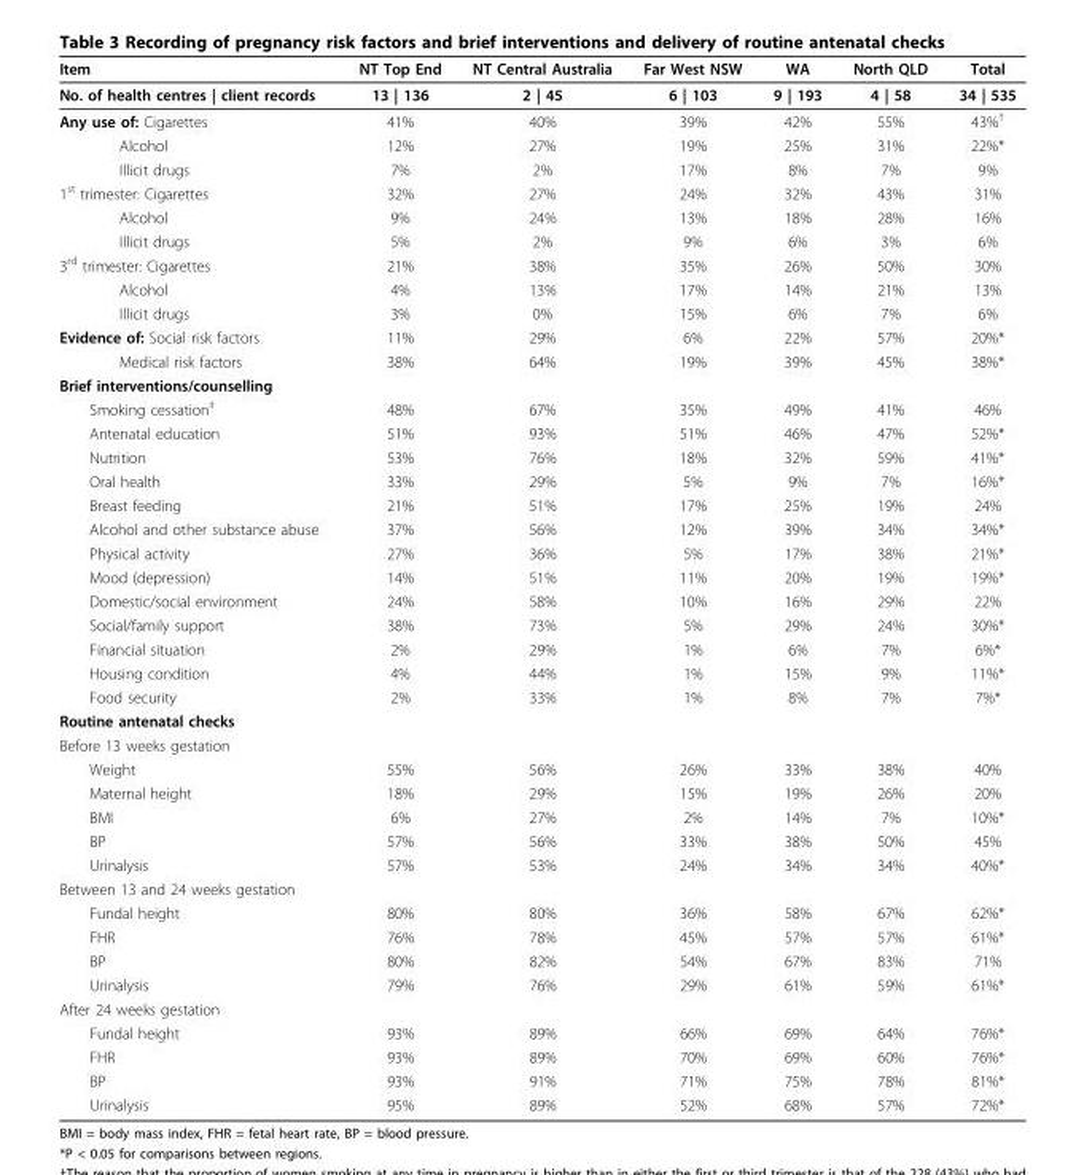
<table><thead><tr><td>Item</td><td>NT Top End</td><td>NT Central Australia</td><td>Far West NSW</td><td>WA</td><td>North QLD</td><td>Total</td></tr></thead><tbody><tr><td>No. of health centres | client records</td><td>13 | 136</td><td>2 | 45</td><td>6 | 103</td><td>9 | 193</td><td>4 | 58</td><td>34 | 535</td></tr><tr><td>Any use of: Cigarettes</td><td>41%</td><td>40%</td><td>39%</td><td>42%</td><td>55%</td><td>43%<sup>†</sup></td></tr><tr><td>Alcohol</td><td>12%</td><td>27%</td><td>19%</td><td>25%</td><td>31%</td><td>22%*</td></tr><tr><td>Illicit drugs</td><td>7%</td><td>2%</td><td>17%</td><td>8%</td><td>7%</td><td>9%</td></tr><tr><td>1<sup>st</sup> trimester: Cigarettes</td><td>32%</td><td>27%</td><td>24%</td><td>32%</td><td>43%</td><td>31%</td></tr><tr><td>Alcohol</td><td>9%</td><td>24%</td><td>13%</td><td>18%</td><td>28%</td><td>16%</td></tr><tr><td>Illicit drugs</td><td>5%</td><td>2%</td><td>9%</td><td>6%</td><td>3%</td><td>6%</td></tr><tr><td>3<sup>rd</sup> trimester: Cigarettes</td><td>21%</td><td>38%</td><td>35%</td><td>26%</td><td>50%</td><td>30%</td></tr><tr><td>Alcohol</td><td>4%</td><td>13%</td><td>17%</td><td>14%</td><td>21%</td><td>13%</td></tr><tr><td>Illicit drugs</td><td>3%</td><td>0%</td><td>15%</td><td>6%</td><td>7%</td><td>6%</td></tr><tr><td>Evidence of: Social risk factors</td><td>11%</td><td>29%</td><td>6%</td><td>22%</td><td>57%</td><td>20%*</td></tr><tr><td>Medical risk factors</td><td>38%</td><td>64%</td><td>19%</td><td>39%</td><td>45%</td><td>38%*</td></tr><tr><td colspan="7">Brief interventions/counselling</td></tr><tr><td>Smoking cessation<sup>‡</sup></td><td>48%</td><td>67%</td><td>35%</td><td>49%</td><td>41%</td><td>46%</td></tr><tr><td>Antenatal education</td><td>51%</td><td>93%</td><td>51%</td><td>46%</td><td>47%</td><td>52%*</td></tr><tr><td>Nutrition</td><td>53%</td><td>76%</td><td>18%</td><td>32%</td><td>59%</td><td>41%*</td></tr><tr><td>Oral health</td><td>33%</td><td>29%</td><td>5%</td><td>9%</td><td>7%</td><td>16%*</td></tr><tr><td>Breast feeding</td><td>21%</td><td>51%</td><td>17%</td><td>25%</td><td>19%</td><td>24%</td></tr><tr><td>Alcohol and other substance abuse</td><td>37%</td><td>56%</td><td>12%</td><td>39%</td><td>34%</td><td>34%*</td></tr><tr><td>Physical activity</td><td>27%</td><td>36%</td><td>5%</td><td>17%</td><td>38%</td><td>21%*</td></tr><tr><td>Mood (depression)</td><td>14%</td><td>51%</td><td>11%</td><td>20%</td><td>19%</td><td>19%*</td></tr><tr><td>Domestic/social environment</td><td>24%</td><td>58%</td><td>10%</td><td>16%</td><td>29%</td><td>22%</td></tr><tr><td>Social/family support</td><td>38%</td><td>73%</td><td>5%</td><td>29%</td><td>24%</td><td>30%*</td></tr><tr><td>Financial situation</td><td>2%</td><td>29%</td><td>1%</td><td>6%</td><td>7%</td><td>6%*</td></tr><tr><td>Housing condition</td><td>4%</td><td>44%</td><td>1%</td><td>15%</td><td>9%</td><td>11%*</td></tr><tr><td>Food security</td><td>2%</td><td>33%</td><td>1%</td><td>8%</td><td>7%</td><td>7%*</td></tr><tr><td colspan="7">Routine antenatal checks</td></tr><tr><td colspan="7">Before 13 weeks gestation</td></tr><tr><td>Weight</td><td>55%</td><td>56%</td><td>26%</td><td>33%</td><td>38%</td><td>40%</td></tr><tr><td>Maternal height</td><td>18%</td><td>29%</td><td>15%</td><td>19%</td><td>26%</td><td>20%</td></tr><tr><td>BMI</td><td>6%</td><td>27%</td><td>2%</td><td>14%</td><td>7%</td><td>10%*</td></tr><tr><td>BP</td><td>57%</td><td>56%</td><td>33%</td><td>38%</td><td>50%</td><td>45%</td></tr><tr><td>Urinalysis</td><td>57%</td><td>53%</td><td>24%</td><td>34%</td><td>34%</td><td>40%*</td></tr><tr><td colspan="7">Between 13 and 24 weeks gestation</td></tr><tr><td>Fundal height</td><td>80%</td><td>80%</td><td>36%</td><td>58%</td><td>67%</td><td>62%*</td></tr><tr><td>FHR</td><td>76%</td><td>78%</td><td>45%</td><td>57%</td><td>57%</td><td>61%*</td></tr><tr><td>BP</td><td>80%</td><td>82%</td><td>54%</td><td>67%</td><td>83%</td><td>71%</td></tr><tr><td>Urinalysis</td><td>79%</td><td>76%</td><td>29%</td><td>61%</td><td>59%</td><td>61%*</td></tr><tr><td colspan="7">After 24 weeks gestation</td></tr><tr><td>Fundal height</td><td>93%</td><td>89%</td><td>66%</td><td>69%</td><td>64%</td><td>76%*</td></tr><tr><td>FHR</td><td>93%</td><td>89%</td><td>70%</td><td>69%</td><td>60%</td><td>76%*</td></tr><tr><td>BP</td><td>93%</td><td>91%</td><td>71%</td><td>75%</td><td>78%</td><td>81%*</td></tr><tr><td>Urinalysis</td><td>95%</td><td>89%</td><td>52%</td><td>68%</td><td>57%</td><td>72%*</td></tr></tbody></table>